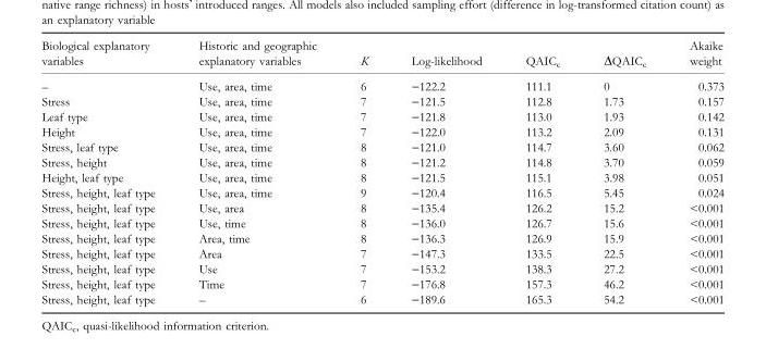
<table><thead><tr><td>Biological explanatory variables</td><td>Historic and geographic explanatory variables</td><td>K</td><td>Log-likelihood</td><td>QAIC<sub>c</sub></td><td>ΔQAIC<sub>c</sub></td><td>Akaike weight</td></tr></thead><tbody><tr><td>–</td><td>Use, area, time</td><td>6</td><td>−122.2</td><td>111.1</td><td>0</td><td>0.373</td></tr><tr><td>Stress</td><td>Use, area, time</td><td>7</td><td>−121.5</td><td>112.8</td><td>1.73</td><td>0.157</td></tr><tr><td>Leaf type</td><td>Use, area, time</td><td>7</td><td>−121.8</td><td>113.0</td><td>1.93</td><td>0.142</td></tr><tr><td>Height</td><td>Use, area, time</td><td>7</td><td>−122.0</td><td>113.2</td><td>2.09</td><td>0.131</td></tr><tr><td>Stress, leaf type</td><td>Use, area, time</td><td>8</td><td>−121.0</td><td>114.7</td><td>3.60</td><td>0.062</td></tr><tr><td>Stress, height</td><td>Use, area, time</td><td>8</td><td>−121.2</td><td>114.8</td><td>3.70</td><td>0.059</td></tr><tr><td>Height, leaf type</td><td>Use, area, time</td><td>8</td><td>−121.5</td><td>115.1</td><td>3.98</td><td>0.051</td></tr><tr><td>Stress, height, leaf type</td><td>Use, area, time</td><td>9</td><td>−120.4</td><td>116.5</td><td>5.45</td><td>0.024</td></tr><tr><td>Stress, height, leaf type</td><td>Use, area</td><td>8</td><td>−135.4</td><td>126.2</td><td>15.2</td><td>&lt;0.001</td></tr><tr><td>Stress, height, leaf type</td><td>Use, time</td><td>8</td><td>−136.0</td><td>126.7</td><td>15.6</td><td>&lt;0.001</td></tr><tr><td>Stress, height, leaf type</td><td>Area, time</td><td>8</td><td>−136.3</td><td>126.9</td><td>15.9</td><td>&lt;0.001</td></tr><tr><td>Stress, height, leaf type</td><td>Area</td><td>7</td><td>−147.3</td><td>133.5</td><td>22.5</td><td>&lt;0.001</td></tr><tr><td>Stress, height, leaf type</td><td>Use</td><td>7</td><td>−153.2</td><td>138.3</td><td>27.2</td><td>&lt;0.001</td></tr><tr><td>Stress, height, leaf type</td><td>Time</td><td>7</td><td>−176.8</td><td>157.3</td><td>46.2</td><td>&lt;0.001</td></tr><tr><td>Stress, height, leaf type</td><td>–</td><td>6</td><td>−189.6</td><td>165.3</td><td>54.2</td><td>&lt;0.001</td></tr></tbody></table>